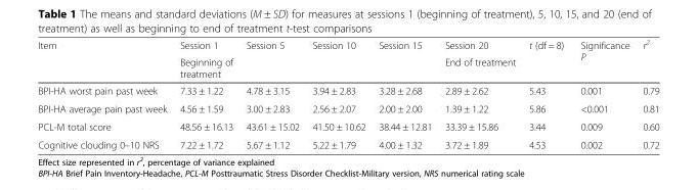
<table><thead><tr><td rowspan="2">Item</td><td rowspan="2">Session 1 Beginning of treatment</td><td rowspan="2">Session 5</td><td rowspan="2">Session 10</td><td rowspan="2">Session 15</td><td rowspan="2">Session 20 End of treatment</td><td rowspan="2">t (df = 8)</td><td rowspan="2">Significance P</td><td rowspan="2">r<sup>2</sup></td></tr><tr></tr></thead><tbody><tr><td>BPI-HA worst pain past week</td><td>7.33 ± 1.22</td><td>4.78 ± 3.15</td><td>3.94 ± 2.83</td><td>3.28 ± 2.68</td><td>2.89 ± 2.62</td><td>5.43</td><td>0.001</td><td>0.79</td></tr><tr><td>BPI-HA average pain past week</td><td>4.56 ± 1.59</td><td>3.00 ± 2.83</td><td>2.56 ± 2.07</td><td>2.00 ± 2.00</td><td>1.39 ± 1.22</td><td>5.86</td><td>&lt;0.001</td><td>0.81</td></tr><tr><td>PCL-M total score</td><td>48.56 ± 16.13</td><td>43.61 ± 15.02</td><td>41.50 ± 10.62</td><td>38.44 ± 12.81</td><td>33.39 ± 15.86</td><td>3.44</td><td>0.009</td><td>0.60</td></tr><tr><td>Cognitive clouding 0–10 NRS</td><td>7.22 ± 1.72</td><td>5.67 ± 1.12</td><td>5.22 ± 1.79</td><td>4.00 ± 1.32</td><td>3.72 ± 1.89</td><td>4.53</td><td>0.002</td><td>0.72</td></tr></tbody></table>